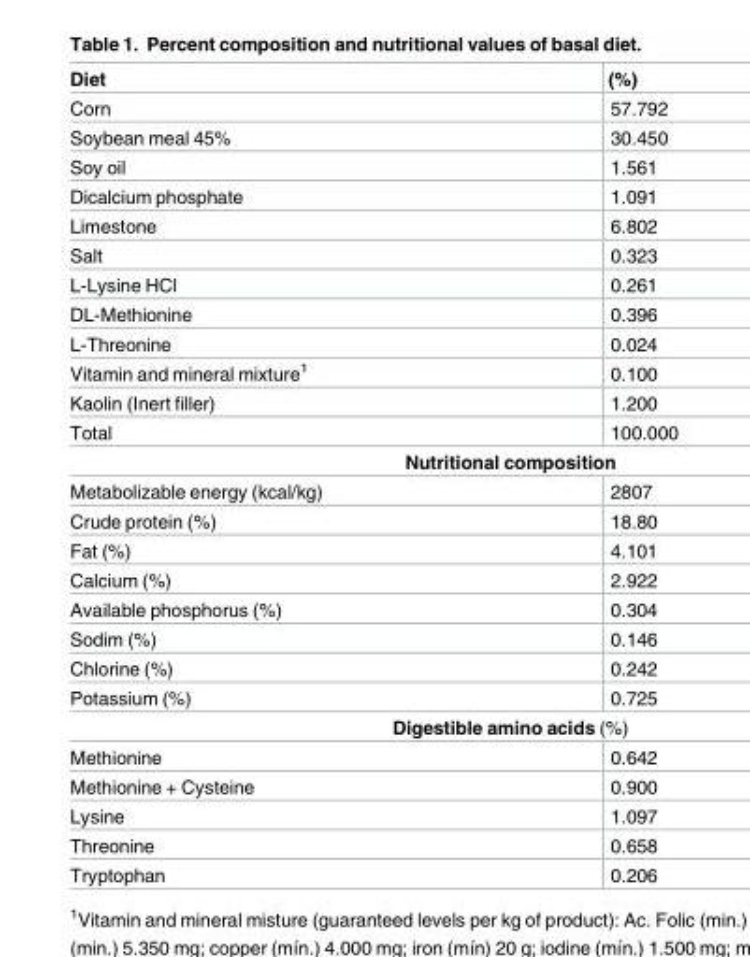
<table><thead><tr><td>Diet</td><td>(%)</td></tr></thead><tbody><tr><td>Corn</td><td>57.792</td></tr><tr><td>Soybean meal 45%</td><td>30.450</td></tr><tr><td>Soy oil</td><td>1.561</td></tr><tr><td>Dicalcium phosphate</td><td>1.091</td></tr><tr><td>Limestone</td><td>6.802</td></tr><tr><td>Salt</td><td>0.323</td></tr><tr><td>L-Lysine HCl</td><td>0.261</td></tr><tr><td>DL-Methionine</td><td>0.396</td></tr><tr><td>L-Threonine</td><td>0.024</td></tr><tr><td>Vitamin and mineral mixture<sup>1</sup></td><td>0.100</td></tr><tr><td>Kaolin (Inert filler)</td><td>1.200</td></tr><tr><td>Total</td><td>100.000</td></tr><tr><td colspan="2">Nutritional composition</td></tr><tr><td>Metabolizable energy (kcal/kg)</td><td>2807</td></tr><tr><td>Crude protein (%)</td><td>18.80</td></tr><tr><td>Fat (%)</td><td>4.101</td></tr><tr><td>Calcium (%)</td><td>2.922</td></tr><tr><td>Available phosphorus (%)</td><td>0.304</td></tr><tr><td>Sodim (%)</td><td>0.146</td></tr><tr><td>Chlorine (%)</td><td>0.242</td></tr><tr><td>Potassium (%)</td><td>0.725</td></tr><tr><td colspan="2">Digestible amino acids (%)</td></tr><tr><td>Methionine</td><td>0.642</td></tr><tr><td>Methionine + Cysteine</td><td>0.900</td></tr><tr><td>Lysine</td><td>1.097</td></tr><tr><td>Threonine</td><td>0.658</td></tr><tr><td>Tryptophan</td><td>0.206</td></tr></tbody></table>